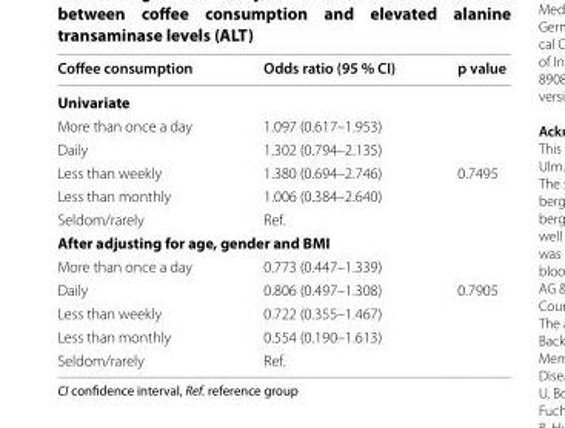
<table><thead><tr><td>Coffee consumption</td><td>Odds ratio (95 % CI)</td><td>p value</td></tr></thead><tbody><tr><td colspan="3">Univariate</td></tr><tr><td>More than once a day</td><td>1.097 (0.617–1.953)</td><td></td></tr><tr><td>Daily</td><td>1.302 (0.794–2.135)</td><td></td></tr><tr><td>Less than weekly</td><td>1.380 (0.694–2.746)</td><td>0.7495</td></tr><tr><td>Less than monthly</td><td>1.006 (0.384–2.640)</td><td></td></tr><tr><td>Seldom/rarely</td><td>Ref.</td><td></td></tr><tr><td colspan="3">After adjusting for age, gender and BMI</td></tr><tr><td>More than once a day</td><td>0.773 (0.447–1.339)</td><td></td></tr><tr><td>Daily</td><td>0.806 (0.497–1.308)</td><td>0.7905</td></tr><tr><td>Less than weekly</td><td>0.722 (0.355–1.467)</td><td></td></tr><tr><td>Less than monthly</td><td>0.554 (0.190–1.613)</td><td></td></tr><tr><td>Seldom/rarely</td><td>Ref.</td><td></td></tr></tbody></table>